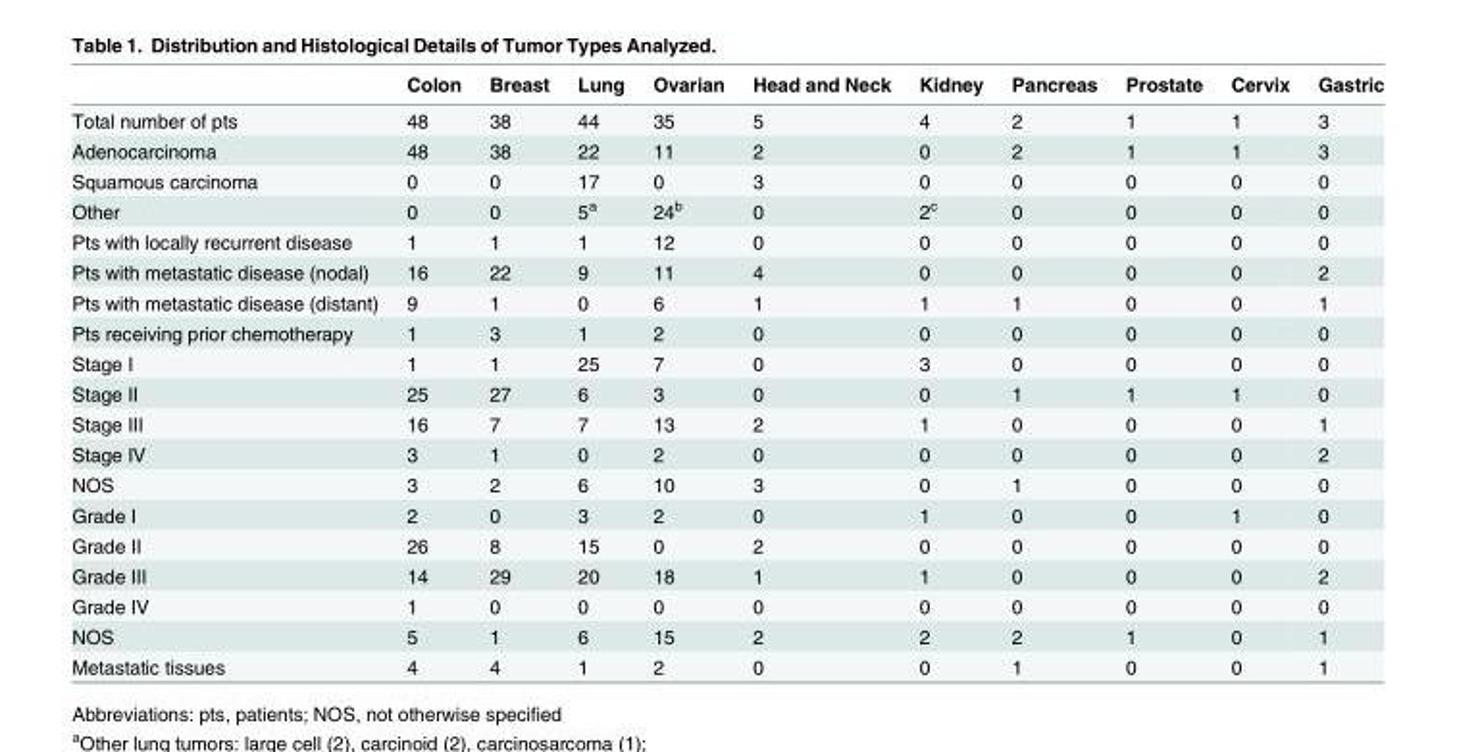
<table><thead><tr><td></td><td>Colon</td><td>Breast</td><td>Lung</td><td>Ovarian</td><td>Head and Neck</td><td>Kidney</td><td>Pancreas</td><td>Prostate</td><td>Cervix</td><td>Gastric</td></tr></thead><tbody><tr><td>Total number of pts</td><td>48</td><td>38</td><td>44</td><td>35</td><td>5</td><td>4</td><td>2</td><td>1</td><td>1</td><td>3</td></tr><tr><td>Adenocarcinoma</td><td>48</td><td>38</td><td>22</td><td>11</td><td>2</td><td>0</td><td>2</td><td>1</td><td>1</td><td>3</td></tr><tr><td>Squamous carcinoma</td><td>0</td><td>0</td><td>17</td><td>0</td><td>3</td><td>0</td><td>0</td><td>0</td><td>0</td><td>0</td></tr><tr><td>Other</td><td>0</td><td>0</td><td>5<sup>a</sup></td><td>24<sup>b</sup></td><td>0</td><td>2<sup>c</sup></td><td>0</td><td>0</td><td>0</td><td>0</td></tr><tr><td>Pts with locally recurrent disease</td><td>1</td><td>1</td><td>1</td><td>12</td><td>0</td><td>0</td><td>0</td><td>0</td><td>0</td><td>0</td></tr><tr><td>Pts with metastatic disease (nodal)</td><td>16</td><td>22</td><td>9</td><td>11</td><td>4</td><td>0</td><td>0</td><td>0</td><td>0</td><td>2</td></tr><tr><td>Pts with metastatic disease (distant)</td><td>9</td><td>1</td><td>0</td><td>6</td><td>1</td><td>1</td><td>1</td><td>0</td><td>0</td><td>1</td></tr><tr><td>Pts receiving prior chemotherapy</td><td>1</td><td>3</td><td>1</td><td>2</td><td>0</td><td>0</td><td>0</td><td>0</td><td>0</td><td>0</td></tr><tr><td>Stage I</td><td>1</td><td>1</td><td>25</td><td>7</td><td>0</td><td>3</td><td>0</td><td>0</td><td>0</td><td>0</td></tr><tr><td>Stage II</td><td>25</td><td>27</td><td>6</td><td>3</td><td>0</td><td>0</td><td>1</td><td>1</td><td>1</td><td>0</td></tr><tr><td>Stage III</td><td>16</td><td>7</td><td>7</td><td>13</td><td>2</td><td>1</td><td>0</td><td>0</td><td>0</td><td>1</td></tr><tr><td>Stage IV</td><td>3</td><td>1</td><td>0</td><td>2</td><td>0</td><td>0</td><td>0</td><td>0</td><td>0</td><td>2</td></tr><tr><td>NOS</td><td>3</td><td>2</td><td>6</td><td>10</td><td>3</td><td>0</td><td>1</td><td>0</td><td>0</td><td>0</td></tr><tr><td>Grade I</td><td>2</td><td>0</td><td>3</td><td>2</td><td>0</td><td>1</td><td>0</td><td>0</td><td>1</td><td>0</td></tr><tr><td>Grade II</td><td>26</td><td>8</td><td>15</td><td>0</td><td>2</td><td>0</td><td>0</td><td>0</td><td>0</td><td>0</td></tr><tr><td>Grade III</td><td>14</td><td>29</td><td>20</td><td>18</td><td>1</td><td>1</td><td>0</td><td>0</td><td>0</td><td>2</td></tr><tr><td>Grade IV</td><td>1</td><td>0</td><td>0</td><td>0</td><td>0</td><td>0</td><td>0</td><td>0</td><td>0</td><td>0</td></tr><tr><td>NOS</td><td>5</td><td>1</td><td>6</td><td>15</td><td>2</td><td>2</td><td>2</td><td>1</td><td>0</td><td>1</td></tr><tr><td>Metastatic tissues</td><td>4</td><td>4</td><td>1</td><td>2</td><td>0</td><td>0</td><td>1</td><td>0</td><td>0</td><td>1</td></tr></tbody></table>